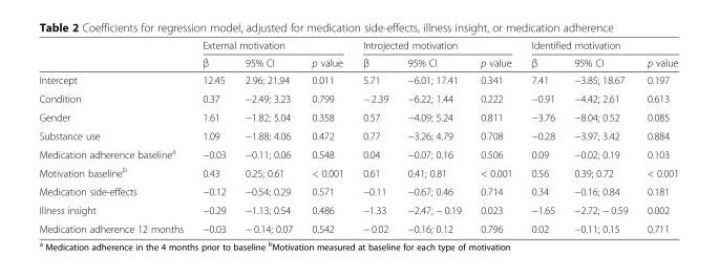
<table><thead><tr><td rowspan="2"></td><td colspan="3">External motivation</td><td colspan="3">Introjected motivation</td><td colspan="3">Identified motivation</td></tr><tr><td>β</td><td>95% CI</td><td>p value</td><td>β</td><td>95% CI</td><td>p value</td><td>β</td><td>95% CI</td><td>p value</td></tr></thead><tbody><tr><td>Intercept</td><td>12.45</td><td>2.96; 21.94</td><td>0.011</td><td>5.71</td><td>−6.01; 17.41</td><td>0.341</td><td>7.41</td><td>−3.85; 18.67</td><td>0.197</td></tr><tr><td>Condition</td><td>0.37</td><td>−2.49; 3.23</td><td>0.799</td><td>− 2.39</td><td>−6.22; 1.44</td><td>0.222</td><td>−0.91</td><td>−4.42; 2.61</td><td>0.613</td></tr><tr><td>Gender</td><td>1.61</td><td>−1.82; 5.04</td><td>0.358</td><td>0.57</td><td>−4.09; 5.24</td><td>0.811</td><td>−3.76</td><td>−8.04; 0.52</td><td>0.085</td></tr><tr><td>Substance use</td><td>1.09</td><td>−1.88; 4.06</td><td>0.472</td><td>0.77</td><td>−3.26; 4.79</td><td>0.708</td><td>−0.28</td><td>−3.97; 3.42</td><td>0.884</td></tr><tr><td>Medication adherence baseline<sup>a</sup></td><td>−0.03</td><td>−0.11; 0.06</td><td>0.548</td><td>0.04</td><td>−0.07; 0.16</td><td>0.506</td><td>0.09</td><td>−0.02; 0.19</td><td>0.103</td></tr><tr><td>Motivation baseline<sup>b</sup></td><td>0.43</td><td>0.25; 0.61</td><td>&lt; 0.001</td><td>0.61</td><td>0.41; 0.81</td><td>&lt; 0.001</td><td>0.56</td><td>0.39; 0.72</td><td>&lt; 0.001</td></tr><tr><td>Medication side-effects</td><td>−0.12</td><td>−0.54; 0.29</td><td>0.571</td><td>−0.11</td><td>−0.67; 0.46</td><td>0.714</td><td>0.34</td><td>−0.16; 0.84</td><td>0.181</td></tr><tr><td>Illness insight</td><td>−0.29</td><td>−1.13; 0.54</td><td>0.486</td><td>−1.33</td><td>−2.47; − 0.19</td><td>0.023</td><td>−1.65</td><td>−2.72; − 0.59</td><td>0.002</td></tr><tr><td>Medication adherence 12 months</td><td>−0.03</td><td>− 0.14; 0.07</td><td>0.542</td><td>− 0.02</td><td>−0.16; 0.12</td><td>0.796</td><td>0.02</td><td>−0.11; 0.15</td><td>0.711</td></tr></tbody></table>